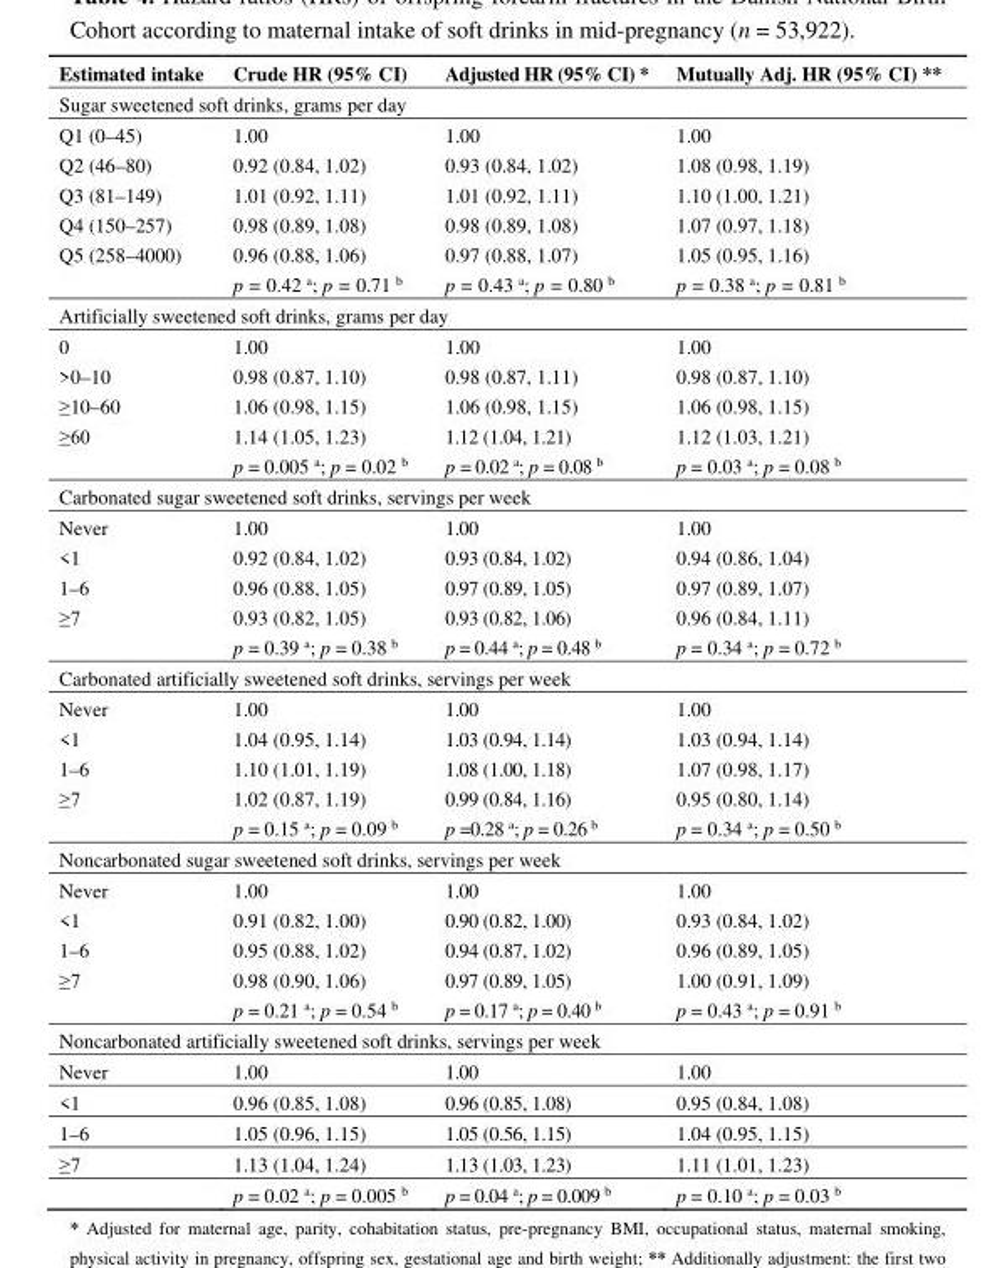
<table><thead><tr><td>Estimated intake</td><td>Crude HR (95% CI)</td><td>Adjusted HR (95% CI) *</td><td>Mutually Adj. HR (95% CI) **</td></tr></thead><tbody><tr><td colspan="4">Sugar sweetened soft drinks, grams per day</td></tr><tr><td>Q1 (0–45)</td><td>1.00</td><td>1.00</td><td>1.00</td></tr><tr><td>Q2 (46–80)</td><td>0.92 (0.84, 1.02)</td><td>0.93 (0.84, 1.02)</td><td>1.08 (0.98, 1.19)</td></tr><tr><td>Q3 (81–149)</td><td>1.01 (0.92, 1.11)</td><td>1.01 (0.92, 1.11)</td><td>1.10 (1.00, 1.21)</td></tr><tr><td>Q4 (150–257)</td><td>0.98 (0.89, 1.08)</td><td>0.98 (0.89, 1.08)</td><td>1.07 (0.97, 1.18)</td></tr><tr><td rowspan="2">Q5 (258–4000)</td><td>0.96 (0.88, 1.06)</td><td>0.97 (0.88, 1.07)</td><td>1.05 (0.95, 1.16)</td></tr><tr><td>p = 0.42 <sup>a</sup>; p = 0.71 <sup>b</sup></td><td>p = 0.43 <sup>a</sup>; p = 0.80 <sup>b</sup></td><td>p = 0.38 <sup>a</sup>; p = 0.81 <sup>b</sup></td></tr><tr><td colspan="4">Artificially sweetened soft drinks, grams per day</td></tr><tr><td>0</td><td>1.00</td><td>1.00</td><td>1.00</td></tr><tr><td>&gt;0–10</td><td>0.98 (0.87, 1.10)</td><td>0.98 (0.87, 1.11)</td><td>0.98 (0.87, 1.10)</td></tr><tr><td>≥10–60</td><td>1.06 (0.98, 1.15)</td><td>1.06 (0.98, 1.15)</td><td>1.06 (0.98, 1.15)</td></tr><tr><td rowspan="2">≥60</td><td>1.14 (1.05, 1.23)</td><td>1.12 (1.04, 1.21)</td><td>1.12 (1.03, 1.21)</td></tr><tr><td>p = 0.005 <sup>a</sup>; p = 0.02 <sup>b</sup></td><td>p = 0.02 <sup>a</sup>; p = 0.08 <sup>b</sup></td><td>p = 0.03 <sup>a</sup>; p = 0.08 <sup>b</sup></td></tr><tr><td colspan="4">Carbonated sugar sweetened soft drinks, servings per week</td></tr><tr><td>Never</td><td>1.00</td><td>1.00</td><td>1.00</td></tr><tr><td>&lt;1</td><td>0.92 (0.84, 1.02)</td><td>0.93 (0.84, 1.02)</td><td>0.94 (0.86, 1.04)</td></tr><tr><td>1–6</td><td>0.96 (0.88, 1.05)</td><td>0.97 (0.89, 1.05)</td><td>0.97 (0.89, 1.07)</td></tr><tr><td rowspan="2">≥7</td><td>0.93 (0.82, 1.05)</td><td>0.93 (0.82, 1.06)</td><td>0.96 (0.84, 1.11)</td></tr><tr><td>p = 0.39 <sup>a</sup>; p = 0.38 <sup>b</sup></td><td>p = 0.44 <sup>a</sup>; p = 0.48 <sup>b</sup></td><td>p = 0.34 <sup>a</sup>; p = 0.72 <sup>b</sup></td></tr><tr><td colspan="4">Carbonated artificially sweetened soft drinks, servings per week</td></tr><tr><td>Never</td><td>1.00</td><td>1.00</td><td>1.00</td></tr><tr><td>&lt;1</td><td>1.04 (0.95, 1.14)</td><td>1.03 (0.94, 1.14)</td><td>1.03 (0.94, 1.14)</td></tr><tr><td>1–6</td><td>1.10 (1.01, 1.19)</td><td>1.08 (1.00, 1.18)</td><td>1.07 (0.98, 1.17)</td></tr><tr><td rowspan="2">≥7</td><td>1.02 (0.87, 1.19)</td><td>0.99 (0.84, 1.16)</td><td>0.95 (0.80, 1.14)</td></tr><tr><td>p = 0.15 <sup>a</sup>; p = 0.09 <sup>b</sup></td><td>p =0.28 <sup>a</sup>; p = 0.26 <sup>b</sup></td><td>p = 0.34 <sup>a</sup>; p = 0.50 <sup>b</sup></td></tr><tr><td colspan="4">Noncarbonated sugar sweetened soft drinks, servings per week</td></tr><tr><td>Never</td><td>1.00</td><td>1.00</td><td>1.00</td></tr><tr><td>&lt;1</td><td>0.91 (0.82, 1.00)</td><td>0.90 (0.82, 1.00)</td><td>0.93 (0.84, 1.02)</td></tr><tr><td>1–6</td><td>0.95 (0.88, 1.02)</td><td>0.94 (0.87, 1.02)</td><td>0.96 (0.89, 1.05)</td></tr><tr><td rowspan="2">≥7</td><td>0.98 (0.90, 1.06)</td><td>0.97 (0.89, 1.05)</td><td>1.00 (0.91, 1.09)</td></tr><tr><td>p = 0.21 <sup>a</sup>; p = 0.54 <sup>b</sup></td><td>p = 0.17 <sup>a</sup>; p = 0.40 <sup>b</sup></td><td>p = 0.43 <sup>a</sup>; p = 0.91 <sup>b</sup></td></tr><tr><td colspan="4">Noncarbonated artificially sweetened soft drinks, servings per week</td></tr><tr><td>Never</td><td>1.00</td><td>1.00</td><td>1.00</td></tr><tr><td>&lt;1</td><td>0.96 (0.85, 1.08)</td><td>0.96 (0.85, 1.08)</td><td>0.95 (0.84, 1.08)</td></tr><tr><td>1–6</td><td>1.05 (0.96, 1.15)</td><td>1.05 (0.56, 1.15)</td><td>1.04 (0.95, 1.15)</td></tr><tr><td rowspan="2">≥7</td><td>1.13 (1.04, 1.24)</td><td>1.13 (1.03, 1.23)</td><td>1.11 (1.01, 1.23)</td></tr><tr><td>p = 0.02 <sup>a</sup>; p = 0.005 <sup>b</sup></td><td>p = 0.04 <sup>a</sup>; p = 0.009 <sup>b</sup></td><td>p = 0.10 <sup>a</sup>; p = 0.03 <sup>b</sup></td></tr></tbody></table>